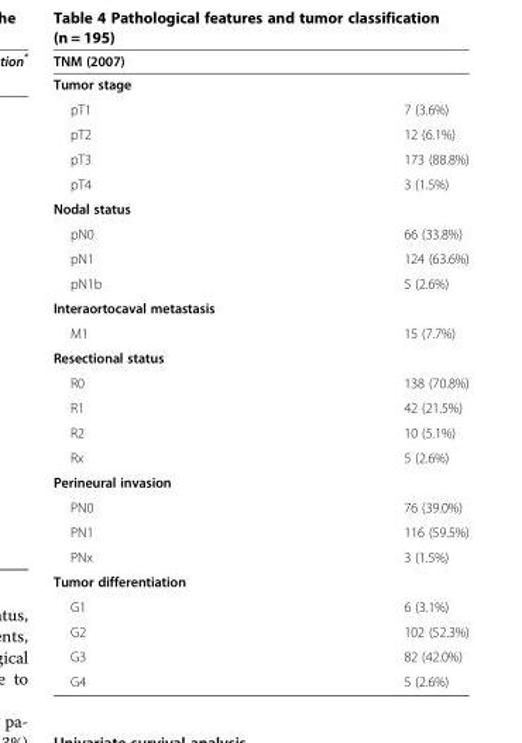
<table><thead><tr><td colspan="2">TNM (2007)</td></tr><tr><td>Tumor stage</td><td></td></tr></thead><tbody><tr><td>pT1</td><td>7 (3.6%)</td></tr><tr><td>pT2</td><td>12 (6.1%)</td></tr><tr><td>pT3</td><td>173 (88.8%)</td></tr><tr><td>pT4</td><td>3 (1.5%)</td></tr><tr><td colspan="2">Nodal status</td></tr><tr><td>pN0</td><td>66 (33.8%)</td></tr><tr><td>pN1</td><td>124 (63.6%)</td></tr><tr><td>pN1b</td><td>5 (2.6%)</td></tr><tr><td colspan="2">Interaortocaval metastasis</td></tr><tr><td>M1</td><td>15 (7.7%)</td></tr><tr><td colspan="2">Resectional status</td></tr><tr><td>R0</td><td>138 (70.8%)</td></tr><tr><td>R1</td><td>42 (21.5%)</td></tr><tr><td>R2</td><td>10 (5.1%)</td></tr><tr><td>Rx</td><td>5 (2.6%)</td></tr><tr><td colspan="2">Perineural invasion</td></tr><tr><td>PN0</td><td>76 (39.0%)</td></tr><tr><td>PN1</td><td>116 (59.5%)</td></tr><tr><td>PNx</td><td>3 (1.5%)</td></tr><tr><td colspan="2">Tumor differentiation</td></tr><tr><td>G1</td><td>6 (3.1%)</td></tr><tr><td>G2</td><td>102 (52.3%)</td></tr><tr><td>G3</td><td>82 (42.0%)</td></tr><tr><td>G4</td><td>5 (2.6%)</td></tr></tbody></table>